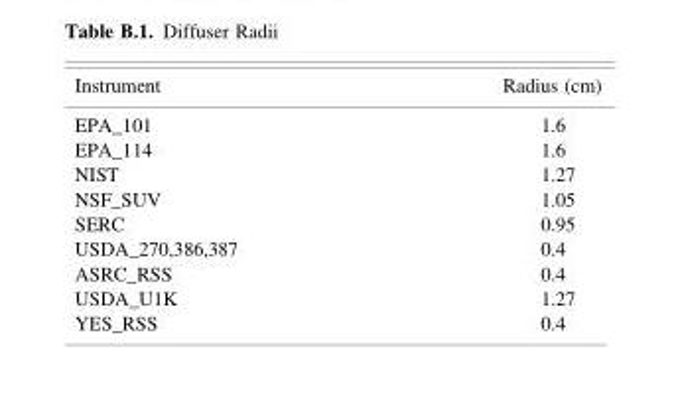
<table><thead><tr><td>Instrument</td><td>Radius (cm)</td></tr></thead><tbody><tr><td>EPA_101</td><td>1.6</td></tr><tr><td>EPA_114</td><td>1.6</td></tr><tr><td>NIST</td><td>1.27</td></tr><tr><td>NSF_SUV</td><td>1.05</td></tr><tr><td>SERC</td><td>0.95</td></tr><tr><td>USDA_270,386,387</td><td>0.4</td></tr><tr><td>ASRC_RSS</td><td>0.4</td></tr><tr><td>USDA_U1K</td><td>1.27</td></tr><tr><td>YES_RSS</td><td>0.4</td></tr></tbody></table>